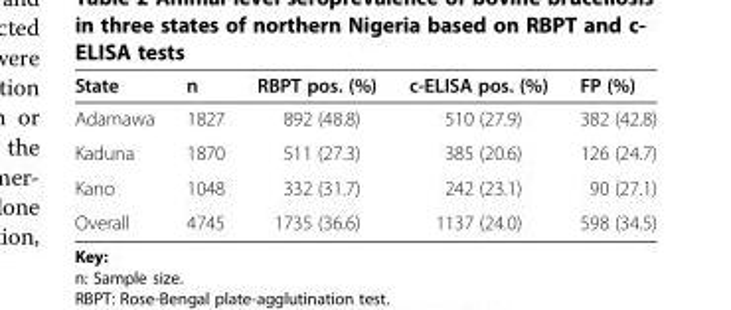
<table><thead><tr><td>State</td><td>n</td><td>RBPT pos. (%)</td><td>c-ELISA pos. (%)</td><td>FP (%)</td></tr></thead><tbody><tr><td>Adamawa</td><td>1827</td><td>892 (48.8)</td><td>510 (27.9)</td><td>382 (42.8)</td></tr><tr><td>Kaduna</td><td>1870</td><td>511 (27.3)</td><td>385 (20.6)</td><td>126 (24.7)</td></tr><tr><td>Kano</td><td>1048</td><td>332 (31.7)</td><td>242 (23.1)</td><td>90 (27.1)</td></tr><tr><td>Overall</td><td>4745</td><td>1735 (36.6)</td><td>1137 (24.0)</td><td>598 (34.5)</td></tr></tbody></table>